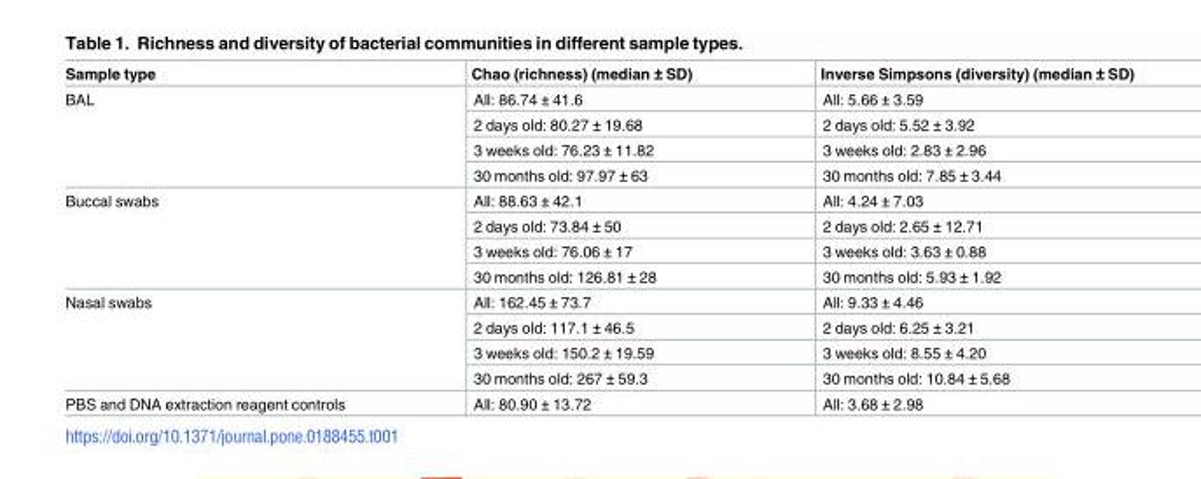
<table><thead><tr><td>Sample type</td><td>Chao (richness) (median ± SD)</td><td>Inverse Simpsons (diversity) (median ± SD)</td></tr></thead><tbody><tr><td rowspan="4">BAL</td><td>All: 86.74 ± 41.6</td><td>All: 5.66 ± 3.59</td></tr><tr><td>2 days old: 80.27 ± 19.68</td><td>2 days old: 5.52 ± 3.92</td></tr><tr><td>3 weeks old: 76.23 ± 11.82</td><td>3 weeks old: 2.83 ± 2.96</td></tr><tr><td>30 months old: 97.97 ± 63</td><td>30 months old: 7.85 ± 3.44</td></tr><tr><td rowspan="4">Buccal swabs</td><td>All: 88.63 ± 42.1</td><td>All: 4.24 ± 7.03</td></tr><tr><td>2 days old: 73.84 ± 50</td><td>2 days old: 2.65 ± 12.71</td></tr><tr><td>3 weeks old: 76.06 ± 17</td><td>3 weeks old: 3.63 ± 0.88</td></tr><tr><td>30 months old: 126.81 ± 28</td><td>30 months old: 5.93 ± 1.92</td></tr><tr><td rowspan="4">Nasal swabs</td><td>All: 162.45 ± 73.7</td><td>All: 9.33 ± 4.46</td></tr><tr><td>2 days old: 117.1 ± 46.5</td><td>2 days old: 6.25 ± 3.21</td></tr><tr><td>3 weeks old: 150.2 ± 19.59</td><td>3 weeks old: 8.55 ± 4.20</td></tr><tr><td>30 months old: 267 ± 59.3</td><td>30 months old: 10.84 ± 5.68</td></tr><tr><td>PBS and DNA extraction reagent controls</td><td>All: 80.90 ± 13.72</td><td>All: 3.68 ± 2.98</td></tr></tbody></table>